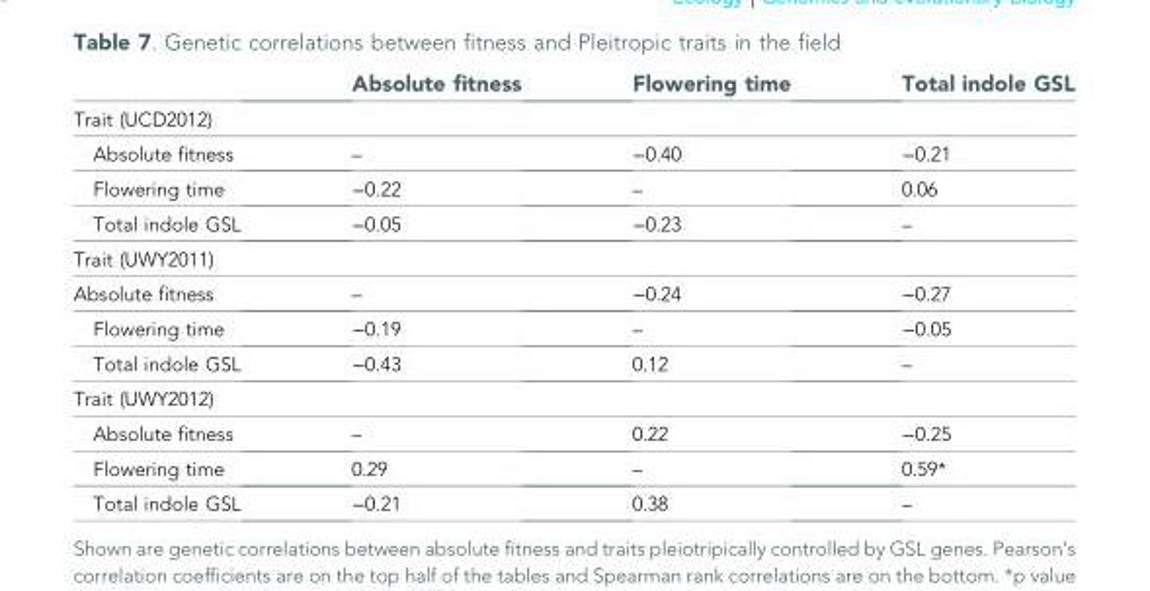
<table><thead><tr><td></td><td>Absolute fitness</td><td>Flowering time</td><td>Total indole GSL</td></tr></thead><tbody><tr><td colspan="4">Trait (UCD2012)</td></tr><tr><td>Absolute fitness</td><td>–</td><td>−0.40</td><td>−0.21</td></tr><tr><td>Flowering time</td><td>−0.22</td><td>–</td><td>0.06</td></tr><tr><td>Total indole GSL</td><td>−0.05</td><td>−0.23</td><td>–</td></tr><tr><td colspan="4">Trait (UWY2011)</td></tr><tr><td>Absolute fitness</td><td>–</td><td>−0.24</td><td>−0.27</td></tr><tr><td>Flowering time</td><td>−0.19</td><td>–</td><td>−0.05</td></tr><tr><td>Total indole GSL</td><td>−0.43</td><td>0.12</td><td>–</td></tr><tr><td colspan="4">Trait (UWY2012)</td></tr><tr><td>Absolute fitness</td><td>–</td><td>0.22</td><td>−0.25</td></tr><tr><td>Flowering time</td><td>0.29</td><td>–</td><td>0.59*</td></tr><tr><td>Total indole GSL</td><td>−0.21</td><td>0.38</td><td>–</td></tr></tbody></table>